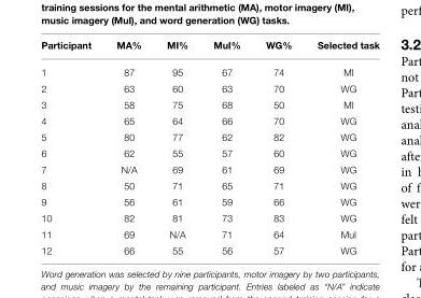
<table><thead><tr><td>Participant</td><td>MA%</td><td>MI%</td><td>MuI%</td><td>WG%</td><td>Selected task</td></tr></thead><tbody><tr><td>1</td><td>87</td><td>95</td><td>67</td><td>74</td><td>MI</td></tr><tr><td>2</td><td>63</td><td>60</td><td>63</td><td>70</td><td>WG</td></tr><tr><td>3</td><td>58</td><td>75</td><td>68</td><td>50</td><td>MI</td></tr><tr><td>4</td><td>65</td><td>64</td><td>66</td><td>70</td><td>WG</td></tr><tr><td>5</td><td>80</td><td>77</td><td>62</td><td>82</td><td>WG</td></tr><tr><td>6</td><td>62</td><td>55</td><td>57</td><td>60</td><td>WG</td></tr><tr><td>7</td><td>N/A</td><td>69</td><td>61</td><td>69</td><td>WG</td></tr><tr><td>8</td><td>50</td><td>71</td><td>65</td><td>71</td><td>WG</td></tr><tr><td>9</td><td>56</td><td>61</td><td>59</td><td>66</td><td>WG</td></tr><tr><td>10</td><td>82</td><td>81</td><td>73</td><td>83</td><td>WG</td></tr><tr><td>11</td><td>69</td><td>N/A</td><td>71</td><td>64</td><td>MuI</td></tr><tr><td>12</td><td>66</td><td>55</td><td>56</td><td>57</td><td>WG</td></tr></tbody></table>